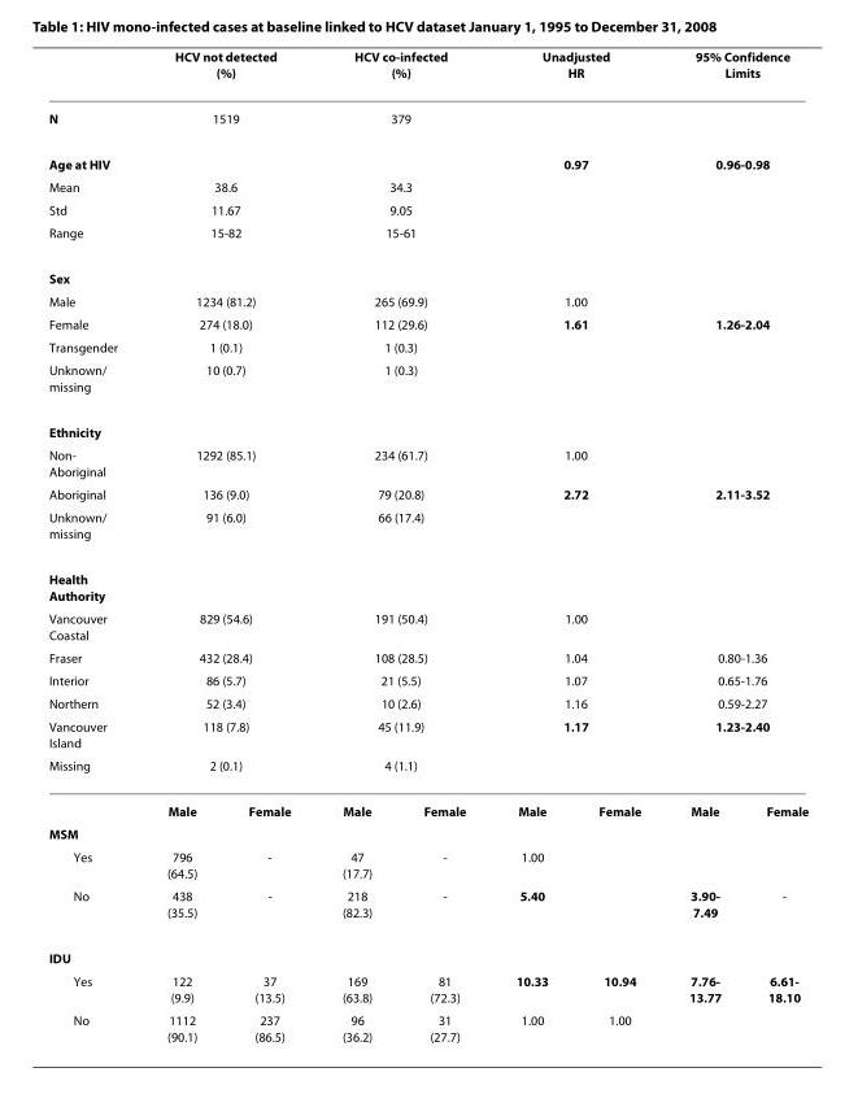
<table><thead><tr><td rowspan="3">N Age at HIV</td><td rowspan="2" colspan="2">HCV not detected (%) 1519</td><td rowspan="2" colspan="2">HCV co-infected (%) 379</td><td colspan="2">Unadjusted HR</td><td colspan="2">95% Confidence Limits</td></tr><tr><td></td><td></td><td></td><td></td></tr><tr><td></td><td></td><td></td><td></td><td colspan="2">0.97</td><td colspan="2">0.96-0.98</td></tr></thead><tbody><tr><td>Mean</td><td colspan="2">38.6</td><td colspan="2">34.3</td><td></td><td></td><td></td><td></td></tr><tr><td>Std</td><td colspan="2">11.67</td><td colspan="2">9.05</td><td></td><td></td><td></td><td></td></tr><tr><td>Range</td><td colspan="2">15-82</td><td colspan="2">15-61</td><td></td><td></td><td></td><td></td></tr><tr><td colspan="9">Sex</td></tr><tr><td>Male</td><td colspan="2">1234 (81.2)</td><td colspan="2">265 (69.9)</td><td colspan="2">1.00</td><td></td><td></td></tr><tr><td>Female</td><td colspan="2">274 (18.0)</td><td colspan="2">112 (29.6)</td><td colspan="2">1.61</td><td colspan="2">1.26-2.04</td></tr><tr><td>Transgender</td><td colspan="2">1 (0.1)</td><td colspan="2">1 (0.3)</td><td></td><td></td><td></td><td></td></tr><tr><td>Unknown/ missing</td><td colspan="2">10 (0.7)</td><td colspan="2">1 (0.3)</td><td></td><td></td><td></td><td></td></tr><tr><td colspan="9">Ethnicity</td></tr><tr><td>Non- Aboriginal</td><td colspan="2">1292 (85.1)</td><td colspan="2">234 (61.7)</td><td colspan="2">1.00</td><td></td><td></td></tr><tr><td>Aboriginal</td><td colspan="2">136 (9.0)</td><td colspan="2">79 (20.8)</td><td colspan="2">2.72</td><td colspan="2">2.11-3.52</td></tr><tr><td>Unknown/ missing</td><td colspan="2">91 (6.0)</td><td colspan="2">66 (17.4)</td><td></td><td></td><td></td><td></td></tr><tr><td colspan="9">Health Authority</td></tr><tr><td>Vancouver Coastal</td><td colspan="2">829 (54.6)</td><td colspan="2">191 (50.4)</td><td colspan="2">1.00</td><td></td><td></td></tr><tr><td>Fraser</td><td colspan="2">432 (28.4)</td><td colspan="2">108 (28.5)</td><td colspan="2">1.04</td><td colspan="2">0.80-1.36</td></tr><tr><td>Interior</td><td colspan="2">86 (5.7)</td><td colspan="2">21 (5.5)</td><td colspan="2">1.07</td><td colspan="2">0.65-1.76</td></tr><tr><td>Northern</td><td colspan="2">52 (3.4)</td><td colspan="2">10 (2.6)</td><td colspan="2">1.16</td><td colspan="2">0.59-2.27</td></tr><tr><td>Vancouver Island</td><td colspan="2">118 (7.8)</td><td colspan="2">45 (11.9)</td><td colspan="2">1.17</td><td colspan="2">1.23-2.40</td></tr><tr><td rowspan="2">Missing</td><td colspan="2">2 (0.1)</td><td colspan="2">4 (1.1)</td><td></td><td></td><td></td><td></td></tr><tr><td>Male</td><td>Female</td><td>Male</td><td>Female</td><td>Male</td><td>Female</td><td>Male</td><td>Female</td></tr><tr><td colspan="9">MSM</td></tr><tr><td>Yes</td><td>796 (64.5)</td><td>-</td><td>47 (17.7)</td><td>-</td><td>1.00</td><td></td><td></td><td></td></tr><tr><td>No</td><td>438 (35.5)</td><td>-</td><td>218 (82.3)</td><td>-</td><td>5.40</td><td></td><td>3.90- 7.49</td><td>-</td></tr><tr><td colspan="9">IDU</td></tr><tr><td>Yes</td><td>122 (9.9)</td><td>37 (13.5)</td><td>169 (63.8)</td><td>81 (72.3)</td><td>10.33</td><td>10.94</td><td>7.76- 13.77</td><td>6.61- 18.10</td></tr><tr><td>No</td><td>1112 (90.1)</td><td>237 (86.5)</td><td>96 (36.2)</td><td>31 (27.7)</td><td>1.00</td><td>1.00</td><td></td><td></td></tr></tbody></table>